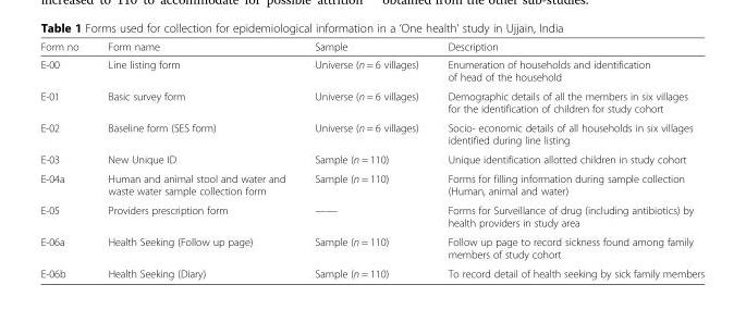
<table><thead><tr><td>Form no</td><td>Form name</td><td>Sample</td><td>Description</td></tr></thead><tbody><tr><td>E-00</td><td>Line listing form</td><td>Universe (n = 6 villages)</td><td>Enumeration of households and identification of head of the household</td></tr><tr><td>E-01</td><td>Basic survey form</td><td>Universe (n = 6 villages)</td><td>Demographic details of all the members in six villages for the identification of children for study cohort</td></tr><tr><td>E-02</td><td>Baseline form (SES form)</td><td>Universe (n = 6 villages)</td><td>Socio- economic details of all households in six villages identified during line listing</td></tr><tr><td>E-03</td><td>New Unique ID</td><td>Sample (n = 110)</td><td>Unique identification allotted children in study cohort</td></tr><tr><td>E-04a</td><td>Human and animal stool and water and waste water sample collection form</td><td>Sample (n = 110)</td><td>Forms for filling information during sample collection (Human, animal and water)</td></tr><tr><td>E-05</td><td>Providers prescription form</td><td>——</td><td>Forms for Surveillance of drug (including antibiotics) by health providers in study area</td></tr><tr><td>E-06a</td><td>Health Seeking (Follow up page)</td><td>Sample (n = 110)</td><td>Follow up page to record sickness found among family members of study cohort</td></tr><tr><td>E-06b</td><td>Health Seeking (Diary)</td><td>Sample (n = 110)</td><td>To record detail of health seeking by sick family members</td></tr></tbody></table>